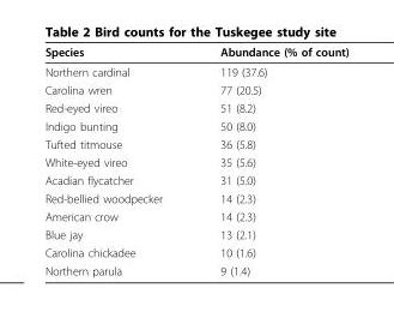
<table><thead><tr><td>Species</td><td>Abundance (% of count)</td></tr></thead><tbody><tr><td>Northern cardinal</td><td>119 (37.6)</td></tr><tr><td>Carolina wren</td><td>77 (20.5)</td></tr><tr><td>Red-eyed vireo</td><td>51 (8.2)</td></tr><tr><td>Indigo bunting</td><td>50 (8.0)</td></tr><tr><td>Tufted titmouse</td><td>36 (5.8)</td></tr><tr><td>White-eyed vireo</td><td>35 (5.6)</td></tr><tr><td>Acadian flycatcher</td><td>31 (5.0)</td></tr><tr><td>Red-bellied woodpecker</td><td>14 (2.3)</td></tr><tr><td>American crow</td><td>14 (2.3)</td></tr><tr><td>Blue jay</td><td>13 (2.1)</td></tr><tr><td>Carolina chickadee</td><td>10 (1.6)</td></tr><tr><td>Northern parula</td><td>9 (1.4)</td></tr></tbody></table>